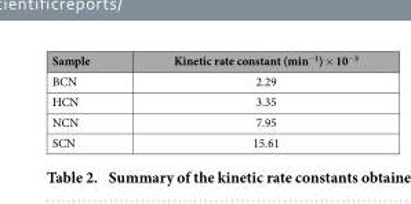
<table><thead><tr><td>Sample</td><td>Kinetic rate constant (min<sup>−1</sup>) × 10<sup>−3</sup></td></tr></thead><tbody><tr><td>BCN</td><td>2.29</td></tr><tr><td>HCN</td><td>3.35</td></tr><tr><td>NCN</td><td>7.95</td></tr><tr><td>SCN</td><td>15.61</td></tr></tbody></table>